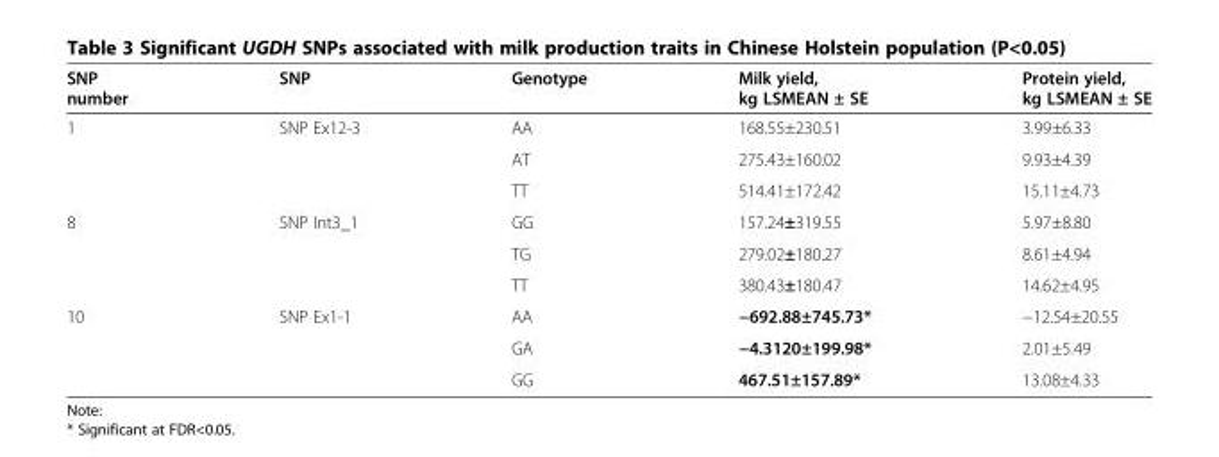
<table><thead><tr><td>SNP number</td><td>SNP</td><td>Genotype</td><td>Milk yield, kg LSMEAN ± SE</td><td>Protein yield, kg LSMEAN ± SE</td></tr></thead><tbody><tr><td rowspan="3">1</td><td rowspan="3">SNP Ex12-3</td><td>AA</td><td>168.55±230.51</td><td>3.99±6.33</td></tr><tr><td>AT</td><td>275.43±160.02</td><td>9.93±4.39</td></tr><tr><td>TT</td><td>514.41±172.42</td><td>15.11±4.73</td></tr><tr><td rowspan="3">8</td><td rowspan="3">SNP Int3_1</td><td>GG</td><td>157.24±319.55</td><td>5.97±8.80</td></tr><tr><td>TG</td><td>279.02±180.27</td><td>8.61±4.94</td></tr><tr><td>TT</td><td>380.43±180.47</td><td>14.62±4.95</td></tr><tr><td rowspan="3">10</td><td rowspan="3">SNP Ex1-1</td><td>AA</td><td>−692.88±745.73*</td><td>−12.54±20.55</td></tr><tr><td>GA</td><td>−4.3120±199.98*</td><td>2.01±5.49</td></tr><tr><td>GG</td><td>467.51±157.89*</td><td>13.08±4.33</td></tr></tbody></table>